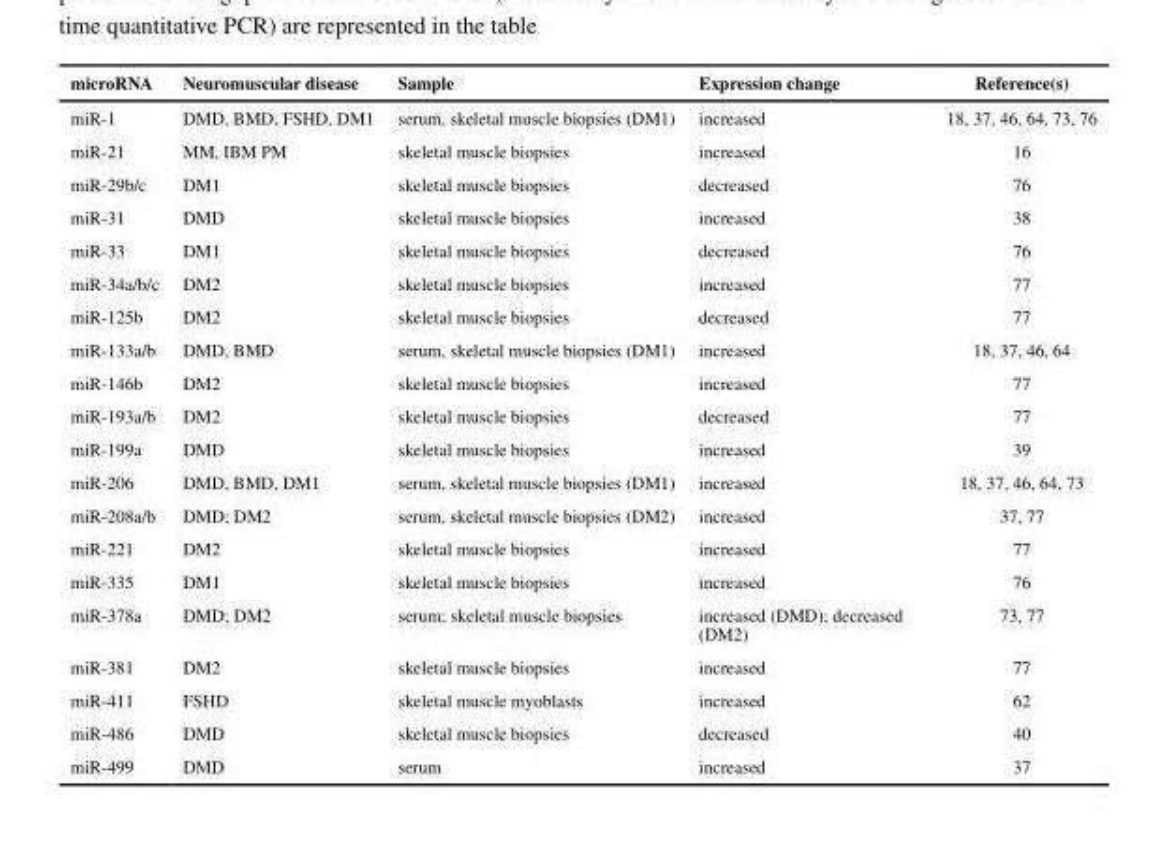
<table><thead><tr><td>microRNA</td><td>Neuromuscular disease</td><td>Sample</td><td>Expression change</td><td>Reference(s)</td></tr></thead><tbody><tr><td>miR-1</td><td>DMD, BMD, FSHD, DM1</td><td>serum, skeletal muscle biopsies (DM1)</td><td>increased</td><td>18, 37, 46, 64, 73, 76</td></tr><tr><td>miR-21</td><td>MM, IBM PM</td><td>skeletal muscle biopsies</td><td>increased</td><td>16</td></tr><tr><td>miR-29b/c</td><td>DM1</td><td>skeletal muscle biopsies</td><td>decreased</td><td>76</td></tr><tr><td>miR-31</td><td>DMD</td><td>skeletal muscle biopsies</td><td>increased</td><td>38</td></tr><tr><td>miR-33</td><td>DM1</td><td>skeletal muscle biopsies</td><td>decreased</td><td>76</td></tr><tr><td>miR-34a/b/c</td><td>DM2</td><td>skeletal muscle biopsies</td><td>increased</td><td>77</td></tr><tr><td>miR-125b</td><td>DM2</td><td>skeletal muscle biopsies</td><td>decreased</td><td>77</td></tr><tr><td>miR-133a/b</td><td>DMD, BMD</td><td>serum, skeletal muscle biopsies (DM1)</td><td>increased</td><td>18, 37, 46, 64</td></tr><tr><td>miR-146b</td><td>DM2</td><td>skeletal muscle biopsies</td><td>increased</td><td>77</td></tr><tr><td>miR-193a/b</td><td>DM2</td><td>skeletal muscle biopsies</td><td>decreased</td><td>77</td></tr><tr><td>miR-199a</td><td>DMD</td><td>skeletal muscle biopsies</td><td>increased</td><td>39</td></tr><tr><td>miR-206</td><td>DMD, BMD, DM1</td><td>serum, skeletal muscle biopsies (DM1)</td><td>increased</td><td>18, 37, 46, 64, 73</td></tr><tr><td>miR-208a/b</td><td>DMD; DM2</td><td>serum, skeletal muscle biopsies (DM2)</td><td>increased</td><td>37, 77</td></tr><tr><td>miR-221</td><td>DM2</td><td>skeletal muscle biopsies</td><td>increased</td><td>77</td></tr><tr><td>miR-335</td><td>DM1</td><td>skeletal muscle biopsies</td><td>increased</td><td>76</td></tr><tr><td>miR-378a</td><td>DMD; DM2</td><td>serum; skeletal muscle biopsies</td><td>increased (DMD); decreased (DM2)</td><td>73, 77</td></tr><tr><td>miR-381</td><td>DM2</td><td>skeletal muscle biopsies</td><td>increased</td><td>77</td></tr><tr><td>miR-411</td><td>FSHD</td><td>skeletal muscle myoblasts</td><td>increased</td><td>62</td></tr><tr><td>miR-486</td><td>DMD</td><td>skeletal muscle biopsies</td><td>decreased</td><td>40</td></tr><tr><td>miR-499</td><td>DMD</td><td>serum</td><td>increased</td><td>37</td></tr></tbody></table>